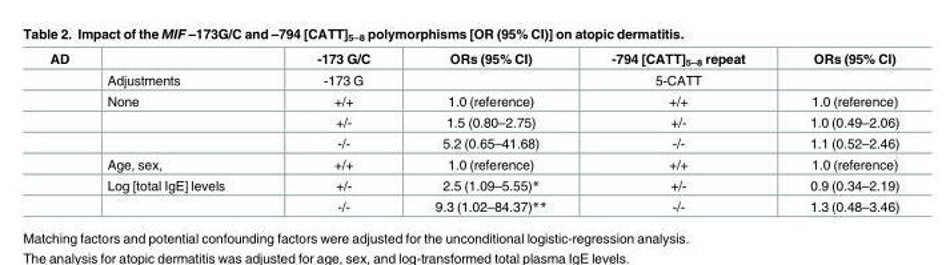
<table><thead><tr><td>AD</td><td></td><td>-173 G/C</td><td>ORs (95% CI)</td><td>-794 [CATT]<sub>5–8</sub> repeat</td><td>ORs (95% CI)</td></tr></thead><tbody><tr><td></td><td>Adjustments</td><td>-173 G</td><td></td><td>5-CATT</td><td></td></tr><tr><td></td><td>None</td><td>+/+</td><td>1.0 (reference)</td><td>+/+</td><td>1.0 (reference)</td></tr><tr><td></td><td></td><td>+/-</td><td>1.5 (0.80–2.75)</td><td>+/-</td><td>1.0 (0.49–2.06)</td></tr><tr><td></td><td></td><td>-/-</td><td>5.2 (0.65–41.68)</td><td>-/-</td><td>1.1 (0.52–2.46)</td></tr><tr><td></td><td>Age, sex,</td><td>+/+</td><td>1.0 (reference)</td><td>+/+</td><td>1.0 (reference)</td></tr><tr><td></td><td>Log [total IgE] levels</td><td>+/-</td><td>2.5 (1.09–5.55)*</td><td>+/-</td><td>0.9 (0.34–2.19)</td></tr><tr><td></td><td></td><td>-/-</td><td>9.3 (1.02–84.37)**</td><td>-/-</td><td>1.3 (0.48–3.46)</td></tr></tbody></table>